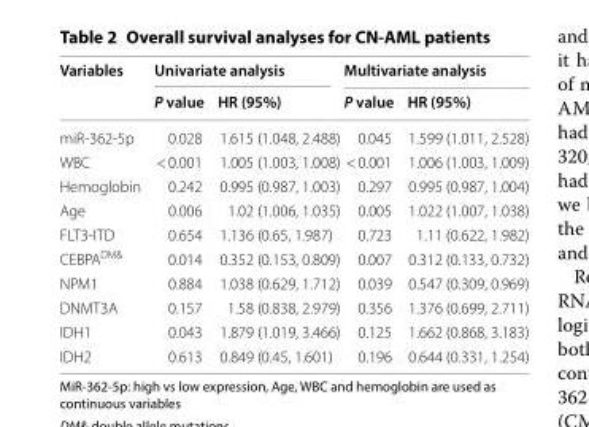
<table><thead><tr><td rowspan="2">Variables</td><td colspan="2">Univariate analysis</td><td colspan="2">Multivariate analysis</td></tr><tr><td>P value</td><td>HR (95%)</td><td>P value</td><td>HR (95%)</td></tr></thead><tbody><tr><td>miR‑362‑5p</td><td>0.028</td><td>1.615 (1.048, 2.488)</td><td>0.045</td><td>1.599 (1.011, 2.528)</td></tr><tr><td>WBC</td><td>&lt; 0.001</td><td>1.005 (1.003, 1.008)</td><td>&lt; 0.001</td><td>1.006 (1.003, 1.009)</td></tr><tr><td>Hemoglobin</td><td>0.242</td><td>0.995 (0.987, 1.003)</td><td>0.297</td><td>0.995 (0.987, 1.004)</td></tr><tr><td>Age</td><td>0.006</td><td>1.02 (1.006, 1.035)</td><td>0.005</td><td>1.022 (1.007, 1.038)</td></tr><tr><td>FLT3‑ITD</td><td>0.654</td><td>1.136 (0.65, 1.987)</td><td>0.723</td><td>1.11 (0.622, 1.982)</td></tr><tr><td>CEBPA<sup>DM&amp;</sup></td><td>0.014</td><td>0.352 (0.153, 0.809)</td><td>0.007</td><td>0.312 (0.133, 0.732)</td></tr><tr><td>NPM1</td><td>0.884</td><td>1.038 (0.629, 1.712)</td><td>0.039</td><td>0.547 (0.309, 0.969)</td></tr><tr><td>DNMT3A</td><td>0.157</td><td>1.58 (0.838, 2.979)</td><td>0.356</td><td>1.376 (0.699, 2.711)</td></tr><tr><td>IDH1</td><td>0.043</td><td>1.879 (1.019, 3.466)</td><td>0.125</td><td>1.662 (0.868, 3.183)</td></tr><tr><td>IDH2</td><td>0.613</td><td>0.849 (0.45, 1.601)</td><td>0.196</td><td>0.644 (0.331, 1.254)</td></tr></tbody></table>